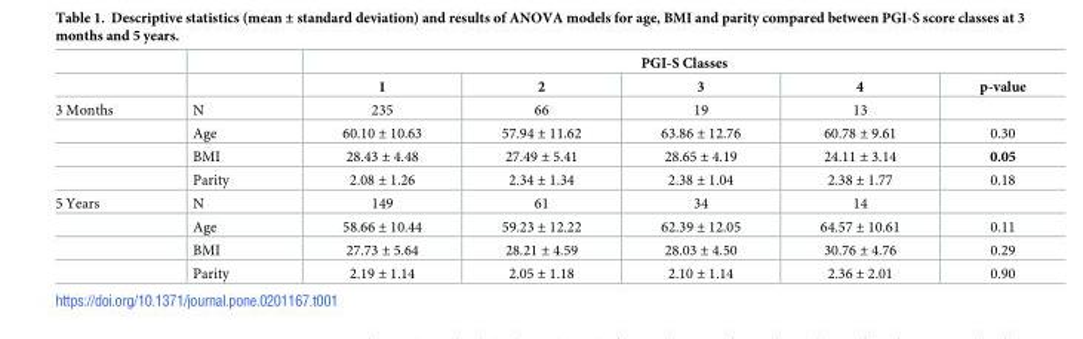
<table><thead><tr><td rowspan="2"></td><td rowspan="2"></td><td colspan="5">PGI-S Classes</td></tr><tr><td>1</td><td>2</td><td>3</td><td>4</td><td>p-value</td></tr></thead><tbody><tr><td rowspan="4">3 Months</td><td>N</td><td>235</td><td>66</td><td>19</td><td>13</td><td></td></tr><tr><td>Age</td><td>60.10 ± 10.63</td><td>57.94 ± 11.62</td><td>63.86 ± 12.76</td><td>60.78 ± 9.61</td><td>0.30</td></tr><tr><td>BMI</td><td>28.43 ± 4.48</td><td>27.49 ± 5.41</td><td>28.65 ± 4.19</td><td>24.11 ± 3.14</td><td>0.05</td></tr><tr><td>Parity</td><td>2.08 ± 1.26</td><td>2.34 ± 1.34</td><td>2.38 ± 1.04</td><td>2.38 ± 1.77</td><td>0.18</td></tr><tr><td rowspan="4">5 Years</td><td>N</td><td>149</td><td>61</td><td>34</td><td>14</td><td></td></tr><tr><td>Age</td><td>58.66 ± 10.44</td><td>59.23 ± 12.22</td><td>62.39 ± 12.05</td><td>64.57 ± 10.61</td><td>0.11</td></tr><tr><td>BMI</td><td>27.73 ± 5.64</td><td>28.21 ± 4.59</td><td>28.03 ± 4.50</td><td>30.76 ± 4.76</td><td>0.29</td></tr><tr><td>Parity</td><td>2.19 ± 1.14</td><td>2.05 ± 1.18</td><td>2.10 ± 1.14</td><td>2.36 ± 2.01</td><td>0.90</td></tr></tbody></table>